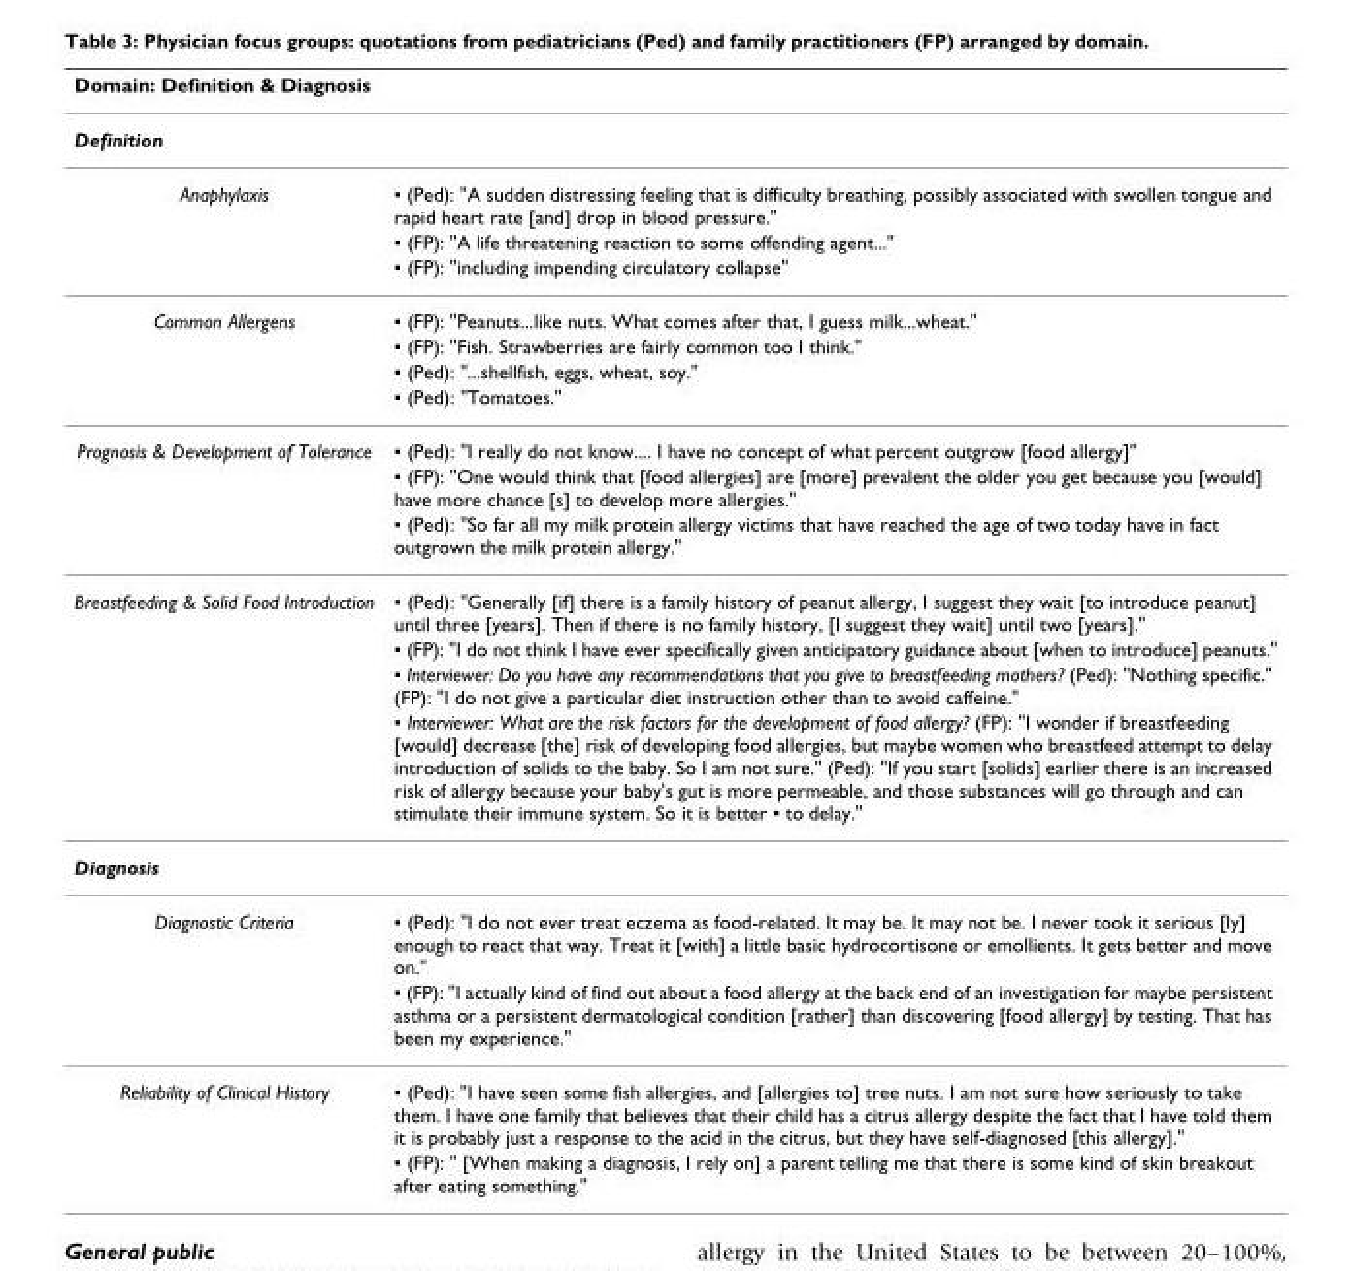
<table><thead><tr><td colspan="2">Domain: Definition &amp; Diagnosis</td></tr><tr><td>Definition</td><td></td></tr></thead><tbody><tr><td rowspan="3">Anaphylaxis</td><td>▪ (Ped): &quot;A sudden distressing feeling that is difficulty breathing, possibly associated with swollen tongue and rapid heart rate [and] drop in blood pressure.&quot;</td></tr><tr><td>▪ (FP): &quot;A life threatening reaction to some offending agent...&quot;</td></tr><tr><td>▪ (FP): &quot;including impending circulatory collapse&quot;</td></tr><tr><td rowspan="4">Common Allergens</td><td>▪ (FP): &quot;Peanuts...like nuts. What comes after that, I guess milk...wheat.&quot;</td></tr><tr><td>▪ (FP): &quot;Fish. Strawberries are fairly common too I think.&quot;</td></tr><tr><td>▪ (Ped): &quot;...shellfish, eggs, wheat, soy.&quot;</td></tr><tr><td>▪ (Ped): &quot;Tomatoes.&quot;</td></tr><tr><td rowspan="3">Prognosis &amp; Development of Tolerance</td><td>▪ (Ped): &quot;I really do not know.... I have no concept of what percent outgrow [food allergy]&quot;</td></tr><tr><td>▪ (FP): &quot;One would think that [food allergies] are [more] prevalent the older you get because you [would] have more chance [s] to develop more allergies.&quot;</td></tr><tr><td>▪ (Ped): &quot;So far all my milk protein allergy victims that have reached the age of two today have in fact outgrown the milk protein allergy.&quot;</td></tr><tr><td rowspan="4">Breastfeeding &amp; Solid Food Introduction</td><td>▪ (Ped): &quot;Generally [if] there is a family history of peanut allergy, I suggest they wait [to introduce peanut] until three [years]. Then if there is no family history, [I suggest they wait] until two [years].&quot;</td></tr><tr><td>▪ (FP): &quot;I do not think I have ever specifically given anticipatory guidance about [when to introduce] peanuts.&quot;</td></tr><tr><td>▪ Interviewer: Do you have any recommendations that you give to breastfeeding mothers? (Ped): &quot;Nothing specific.&quot; (FP): &quot;I do not give a particular diet instruction other than to avoid caffeine.&quot;</td></tr><tr><td>▪ Interviewer: What are the risk factors for the development of food allergy? (FP): &quot;I wonder if breastfeeding [would] decrease [the] risk of developing food allergies, but maybe women who breastfeed attempt to delay introduction of solids to the baby. So I am not sure.&quot; (Ped): &quot;If you start [solids] earlier there is an increased risk of allergy because your baby&#x27;s gut is more permeable, and those substances will go through and can stimulate their immune system. So it is better ▪ to delay.&quot;</td></tr><tr><td colspan="2">Diagnosis</td></tr><tr><td rowspan="2">Diagnostic Criteria</td><td>▪ (Ped): &quot;I do not ever treat eczema as food-related. It may be. It may not be. I never took it serious [ly] enough to react that way. Treat it [with] a little basic hydrocortisone or emollients. It gets better and move on.&quot;</td></tr><tr><td>▪ (FP): &quot;I actually kind of find out about a food allergy at the back end of an investigation for maybe persistent asthma or a persistent dermatological condition [rather] than discovering [food allergy] by testing. That has been my experience.&quot;</td></tr><tr><td rowspan="2">Reliability of Clinical History</td><td>▪ (Ped): &quot;I have seen some fish allergies, and [allergies to] tree nuts. I am not sure how seriously to take them. I have one family that believes that their child has a citrus allergy despite the fact that I have told them it is probably just a response to the acid in the citrus, but they have self-diagnosed [this allergy].&quot;</td></tr><tr><td>▪ (FP): &quot; [When making a diagnosis, I rely on] a parent telling me that there is some kind of skin breakout after eating something.&quot;</td></tr></tbody></table>